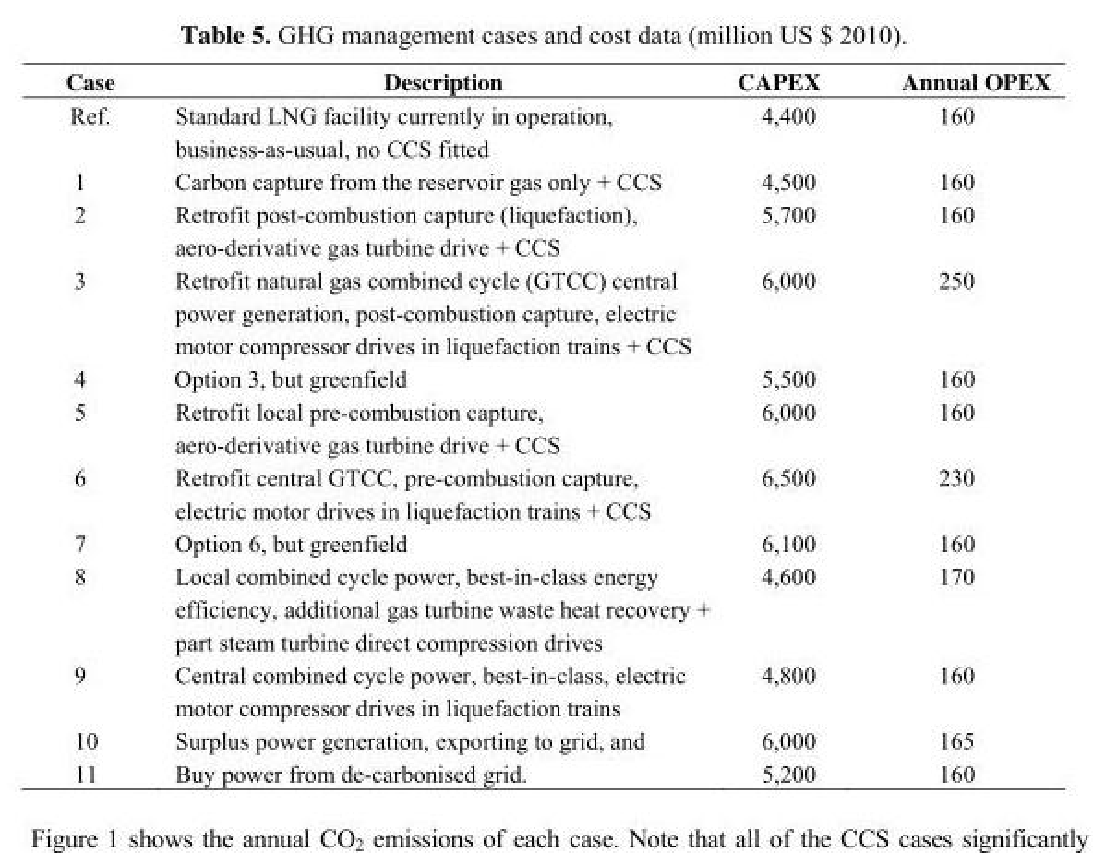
<table><thead><tr><td>Case</td><td>Description</td><td>CAPEX</td><td>Annual OPEX</td></tr></thead><tbody><tr><td>Ref.</td><td>Standard LNG facility currently in operation, business-as-usual, no CCS fitted</td><td>4,400</td><td>160</td></tr><tr><td>1</td><td>Carbon capture from the reservoir gas only + CCS</td><td>4,500</td><td>160</td></tr><tr><td>2</td><td>Retrofit post-combustion capture (liquefaction), aero-derivative gas turbine drive + CCS</td><td>5,700</td><td>160</td></tr><tr><td>3</td><td>Retrofit natural gas combined cycle (GTCC) central power generation, post-combustion capture, electric motor compressor drives in liquefaction trains + CCS</td><td>6,000</td><td>250</td></tr><tr><td>4</td><td>Option 3, but greenfield</td><td>5,500</td><td>160</td></tr><tr><td>5</td><td>Retrofit local pre-combustion capture, aero-derivative gas turbine drive + CCS</td><td>6,000</td><td>160</td></tr><tr><td>6</td><td>Retrofit central GTCC, pre-combustion capture, electric motor drives in liquefaction trains + CCS</td><td>6,500</td><td>230</td></tr><tr><td>7</td><td>Option 6, but greenfield</td><td>6,100</td><td>160</td></tr><tr><td>8</td><td>Local combined cycle power, best-in-class energy efficiency, additional gas turbine waste heat recovery + part steam turbine direct compression drives</td><td>4,600</td><td>170</td></tr><tr><td>9</td><td>Central combined cycle power, best-in-class, electric motor compressor drives in liquefaction trains</td><td>4,800</td><td>160</td></tr><tr><td>10</td><td>Surplus power generation, exporting to grid, and</td><td>6,000</td><td>165</td></tr><tr><td>11</td><td>Buy power from de-carbonised grid.</td><td>5,200</td><td>160</td></tr></tbody></table>